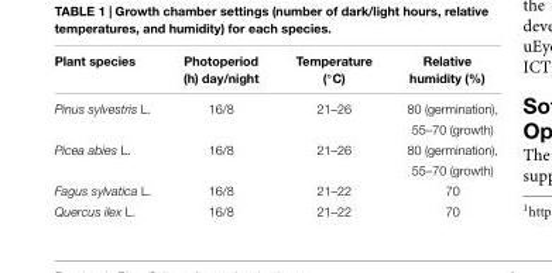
<table><thead><tr><td>Plant species</td><td>Photoperiod (h) day/night</td><td>Temperature (◦C)</td><td>Relative humidity (%)</td></tr></thead><tbody><tr><td rowspan="2">Pinus sylvestris L.</td><td>16/8</td><td>21–26</td><td>80 (germination),</td></tr><tr><td></td><td></td><td>55–70 (growth)</td></tr><tr><td rowspan="2">Picea abies L.</td><td>16/8</td><td>21–26</td><td>80 (germination),</td></tr><tr><td></td><td></td><td>55–70 (growth)</td></tr><tr><td>Fagus sylvatica L.</td><td>16/8</td><td>21–22</td><td>70</td></tr><tr><td>Quercus ilex L.</td><td>16/8</td><td>21–22</td><td>70</td></tr></tbody></table>